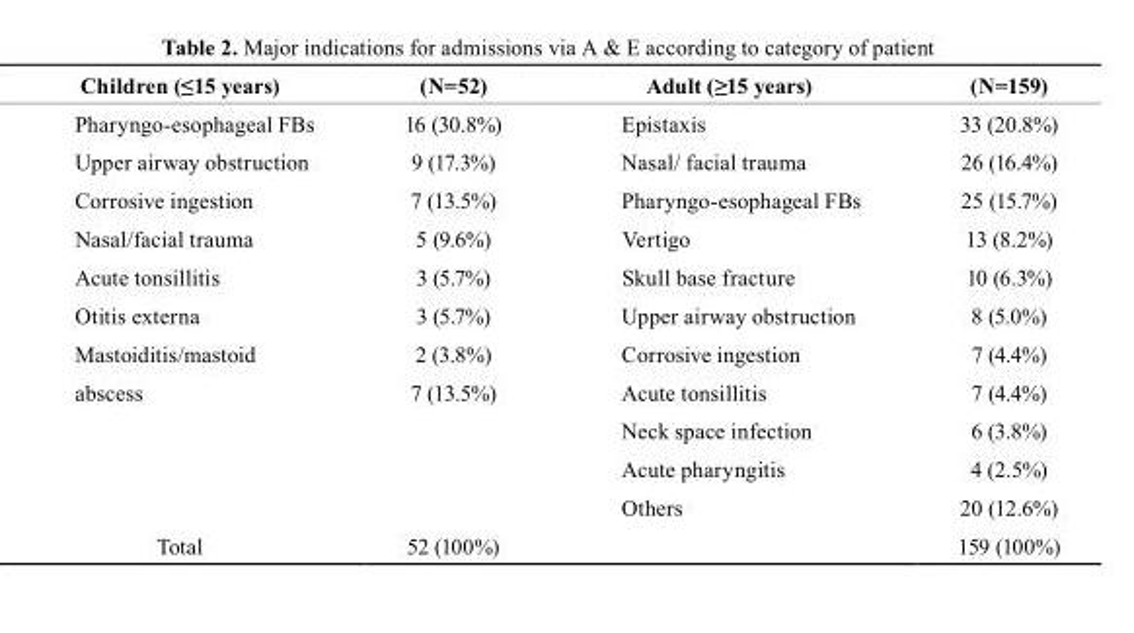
<table><thead><tr><td>Children (≤15 years)</td><td>(N=52)</td><td>Adult (≥15 years)</td><td>(N=159)</td></tr></thead><tbody><tr><td>Pharyngo-esophageal FBs</td><td>16 (30.8%)</td><td>Epistaxis</td><td>33 (20.8%)</td></tr><tr><td>Upper airway obstruction</td><td>9 (17.3%)</td><td>Nasal/ facial trauma</td><td>26 (16.4%)</td></tr><tr><td>Corrosive ingestion</td><td>7 (13.5%)</td><td>Pharyngo-esophageal FBs</td><td>25 (15.7%)</td></tr><tr><td>Nasal/facial trauma</td><td>5 (9.6%)</td><td>Vertigo</td><td>13 (8.2%)</td></tr><tr><td>Acute tonsillitis</td><td>3 (5.7%)</td><td>Skull base fracture</td><td>10 (6.3%)</td></tr><tr><td>Otitis externa</td><td>3 (5.7%)</td><td>Upper airway obstruction</td><td>8 (5.0%)</td></tr><tr><td>Mastoiditis/mastoid</td><td>2 (3.8%)</td><td>Corrosive ingestion</td><td>7 (4.4%)</td></tr><tr><td rowspan="4">abscess</td><td>7 (13.5%)</td><td>Acute tonsillitis</td><td>7 (4.4%)</td></tr><tr><td></td><td>Neck space infection</td><td>6 (3.8%)</td></tr><tr><td></td><td>Acute pharyngitis</td><td>4 (2.5%)</td></tr><tr><td></td><td>Others</td><td>20 (12.6%)</td></tr><tr><td>Total</td><td>52 (100%)</td><td></td><td>159 (100%)</td></tr></tbody></table>